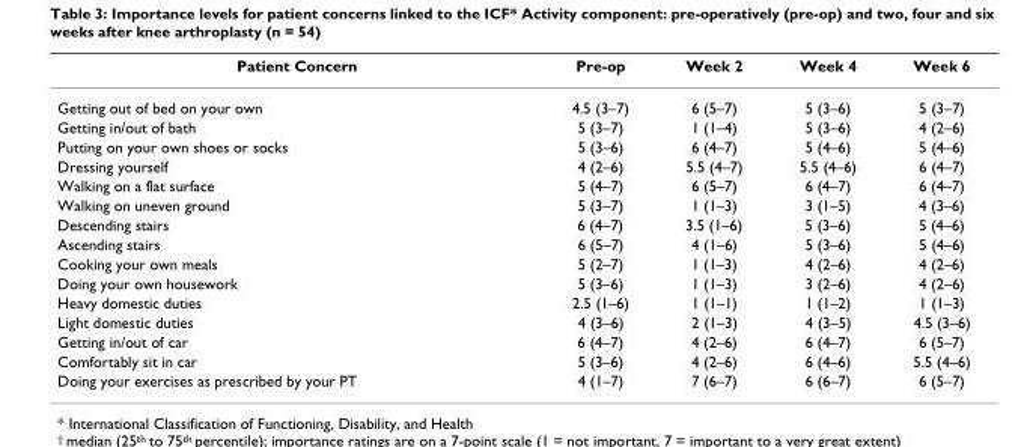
<table><thead><tr><td>Patient Concern</td><td>Pre-op</td><td>Week 2</td><td>Week 4</td><td>Week 6</td></tr></thead><tbody><tr><td>Getting out of bed on your own</td><td>4.5 (3–7)</td><td>6 (5–7)</td><td>5 (3–6)</td><td>5 (3–7)</td></tr><tr><td>Getting in/out of bath</td><td>5 (3–7)</td><td>1 (1–4)</td><td>5 (3–6)</td><td>4 (2–6)</td></tr><tr><td>Putting on your own shoes or socks</td><td>5 (3–6)</td><td>6 (4–7)</td><td>5 (4–6)</td><td>5 (4–6)</td></tr><tr><td>Dressing yourself</td><td>4 (2–6)</td><td>5.5 (4–7)</td><td>5.5 (4–6)</td><td>6 (4–7)</td></tr><tr><td>Walking on a flat surface</td><td>5 (4–7)</td><td>6 (5–7)</td><td>6 (4–7)</td><td>6 (4–7)</td></tr><tr><td>Walking on uneven ground</td><td>5 (3–7)</td><td>1 (1–3)</td><td>3 (1–5)</td><td>4 (3–6)</td></tr><tr><td>Descending stairs</td><td>6 (4–7)</td><td>3.5 (1–6)</td><td>5 (3–6)</td><td>5 (4–6)</td></tr><tr><td>Ascending stairs</td><td>6 (5–7)</td><td>4 (1–6)</td><td>5 (3–6)</td><td>5 (4–6)</td></tr><tr><td>Cooking your own meals</td><td>5 (2–7)</td><td>1 (1–3)</td><td>4 (2–6)</td><td>4 (2–6)</td></tr><tr><td>Doing your own housework</td><td>5 (3–6)</td><td>1 (1–3)</td><td>3 (2–6)</td><td>4 (2–6)</td></tr><tr><td>Heavy domestic duties</td><td>2.5 (1–6)</td><td>1 (1–1)</td><td>1 (1–2)</td><td>1 (1–3)</td></tr><tr><td>Light domestic duties</td><td>4 (3–6)</td><td>2 (1–3)</td><td>4 (3–5)</td><td>4.5 (3–6)</td></tr><tr><td>Getting in/out of car</td><td>6 (4–7)</td><td>4 (2–6)</td><td>6 (4–7)</td><td>6 (5–7)</td></tr><tr><td>Comfortably sit in car</td><td>5 (3–6)</td><td>4 (2–6)</td><td>6 (4–6)</td><td>5.5 (4–6)</td></tr><tr><td>Doing your exercises as prescribed by your PT</td><td>4 (1–7)</td><td>7 (6–7)</td><td>6 (6–7)</td><td>6 (5–7)</td></tr></tbody></table>